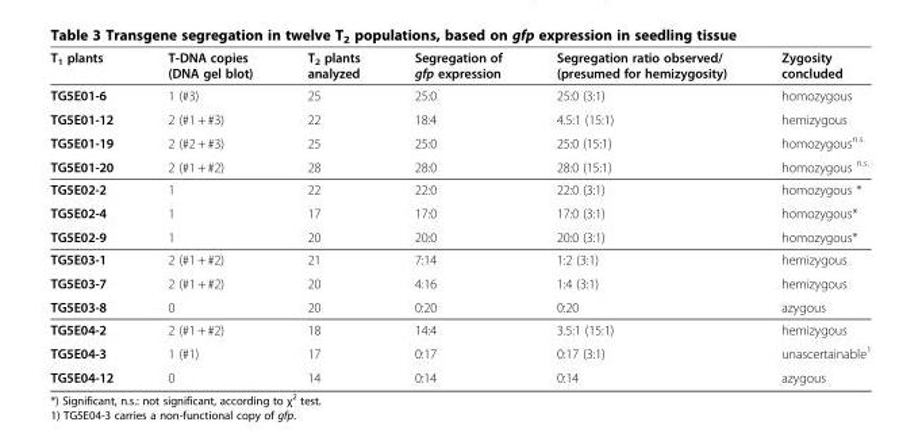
<table><thead><tr><td>T<sub>1</sub> plants</td><td>T-DNA copies (DNA gel blot)</td><td>T<sub>2</sub> plants analyzed</td><td>Segregation of gfp expression</td><td>Segregation ratio observed/ (presumed for hemizygosity)</td><td>Zygosity concluded</td></tr></thead><tbody><tr><td>TG5E01-6</td><td>1 (#3)</td><td>25</td><td>25:0</td><td>25:0 (3:1)</td><td>homozygous</td></tr><tr><td>TG5E01-12</td><td>2 (#1 + #3)</td><td>22</td><td>18:4</td><td>4.5:1 (15:1)</td><td>hemizygous</td></tr><tr><td>TG5E01-19</td><td>2 (#2 + #3)</td><td>25</td><td>25:0</td><td>25:0 (15:1)</td><td>homozygous<sup>n.s.</sup></td></tr><tr><td>TG5E01-20</td><td>2 (#1 + #2)</td><td>28</td><td>28:0</td><td>28:0 (15:1)</td><td>homozygous <sup>n.s.</sup></td></tr><tr><td>TG5E02-2</td><td>1</td><td>22</td><td>22:0</td><td>22:0 (3:1)</td><td>homozygous *</td></tr><tr><td>TG5E02-4</td><td>1</td><td>17</td><td>17:0</td><td>17:0 (3:1)</td><td>homozygous*</td></tr><tr><td>TG5E02-9</td><td>1</td><td>20</td><td>20:0</td><td>20:0 (3:1)</td><td>homozygous*</td></tr><tr><td>TG5E03-1</td><td>2 (#1 + #2)</td><td>21</td><td>7:14</td><td>1:2 (3:1)</td><td>hemizygous</td></tr><tr><td>TG5E03-7</td><td>2 (#1 + #2)</td><td>20</td><td>4:16</td><td>1:4 (3:1)</td><td>hemizygous</td></tr><tr><td>TG5E03-8</td><td>0</td><td>20</td><td>0:20</td><td>0:20</td><td>azygous</td></tr><tr><td>TG5E04-2</td><td>2 (#1 + #2)</td><td>18</td><td>14:4</td><td>3.5:1 (15:1)</td><td>hemizygous</td></tr><tr><td>TG5E04-3</td><td>1 (#1)</td><td>17</td><td>0:17</td><td>0:17 (3:1)</td><td>unascertainable<sup>1</sup></td></tr><tr><td>TG5E04-12</td><td>0</td><td>14</td><td>0:14</td><td>0:14</td><td>azygous</td></tr></tbody></table>